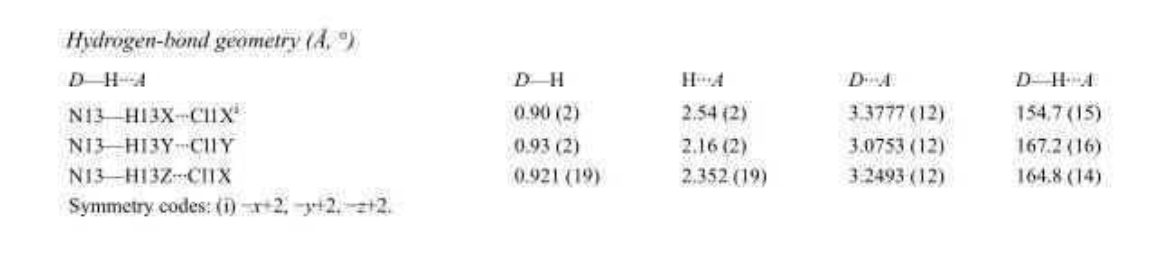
<table><tbody><tr><td>D—H···A</td><td>D—H</td><td>H···A</td><td>D···A</td><td>D—H···A</td></tr><tr><td>N13—H13X···Cl1X<sup>i</sup></td><td>0.90 (2)</td><td>2.54 (2)</td><td>3.3777 (12)</td><td>154.7 (15)</td></tr><tr><td>N13—H13Y···Cl1Y</td><td>0.93 (2)</td><td>2.16 (2)</td><td>3.0753 (12)</td><td>167.2 (16)</td></tr><tr><td>N13—H13Z···Cl1X</td><td>0.921 (19)</td><td>2.352 (19)</td><td>3.2493 (12)</td><td>164.8 (14)</td></tr></tbody></table>